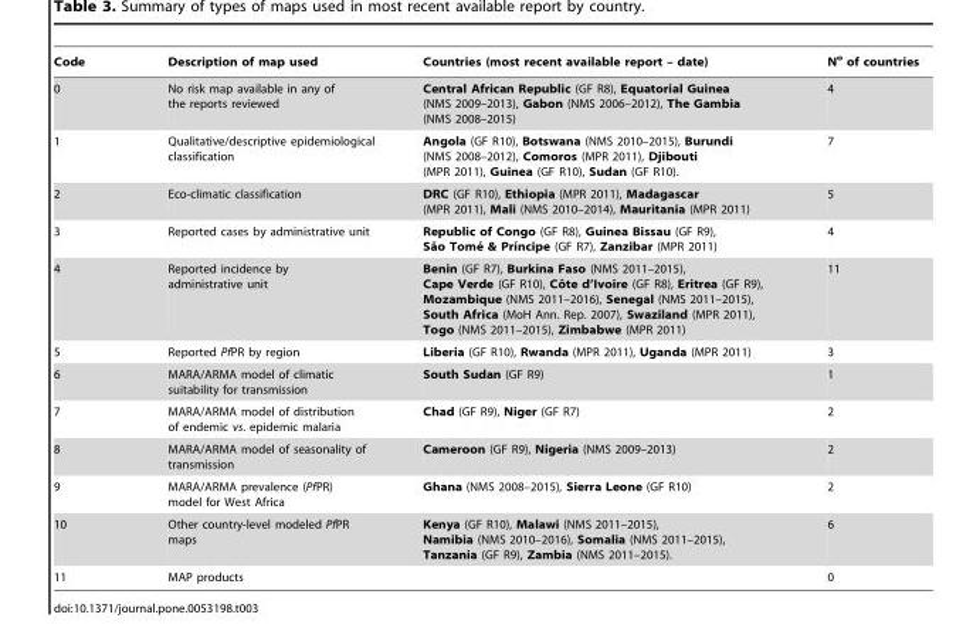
<table><thead><tr><td>Code</td><td>Description of map used</td><td>Countries (most recent available report – date)</td><td>N<sup>o</sup> of countries</td></tr></thead><tbody><tr><td>0</td><td>No risk map available in any of the reports reviewed</td><td>Central African Republic (GF R8), Equatorial Guinea (NMS 2009–2013), Gabon (NMS 2006–2012), The Gambia (NMS 2008–2015)</td><td>4</td></tr><tr><td>1</td><td>Qualitative/descriptive epidemiological classification</td><td>Angola (GF R10), Botswana (NMS 2010–2015), Burundi (NMS 2008–2012), Comoros (MPR 2011), Djibouti (MPR 2011), Guinea (GF R10), Sudan (GF R10).</td><td>7</td></tr><tr><td>2</td><td>Eco-climatic classification</td><td>DRC (GF R10), Ethiopia (MPR 2011), Madagascar (MPR 2011), Mali (NMS 2010–2014), Mauritania (MPR 2011)</td><td>5</td></tr><tr><td>3</td><td>Reported cases by administrative unit</td><td>Republic of Congo (GF R8), Guinea Bissau (GF R9), Sa˜o Tome´ &amp; Prı´ncipe (GF R7), Zanzibar (MPR 2011)</td><td>4</td></tr><tr><td>4</td><td>Reported incidence by administrative unit</td><td>Benin (GF R7), Burkina Faso (NMS 2011–2015), Cape Verde (GF R10), Coˆ te d’Ivoire (GF R8), Eritrea (GF R9), Mozambique (NMS 2011–2016), Senegal (NMS 2011–2015), South Africa (MoH Ann. Rep. 2007), Swaziland (MPR 2011), Togo (NMS 2011–2015), Zimbabwe (MPR 2011)</td><td>11</td></tr><tr><td>5</td><td>Reported PfPR by region</td><td>Liberia (GF R10), Rwanda (MPR 2011), Uganda (MPR 2011)</td><td>3</td></tr><tr><td>6</td><td>MARA/ARMA model of climatic suitability for transmission</td><td>South Sudan (GF R9)</td><td>1</td></tr><tr><td>7</td><td>MARA/ARMA model of distribution of endemic vs. epidemic malaria</td><td>Chad (GF R9), Niger (GF R7)</td><td>2</td></tr><tr><td>8</td><td>MARA/ARMA model of seasonality of transmission</td><td>Cameroon (GF R9), Nigeria (NMS 2009–2013)</td><td>2</td></tr><tr><td>9</td><td>MARA/ARMA prevalence (PfPR) model for West Africa</td><td>Ghana (NMS 2008–2015), Sierra Leone (GF R10)</td><td>2</td></tr><tr><td>10</td><td>Other country-level modeled PfPR maps</td><td>Kenya (GF R10), Malawi (NMS 2011–2015), Namibia (NMS 2010–2016), Somalia (NMS 2011–2015), Tanzania (GF R9), Zambia (NMS 2011–2015).</td><td>6</td></tr><tr><td>11</td><td>MAP products</td><td></td><td>0</td></tr></tbody></table>